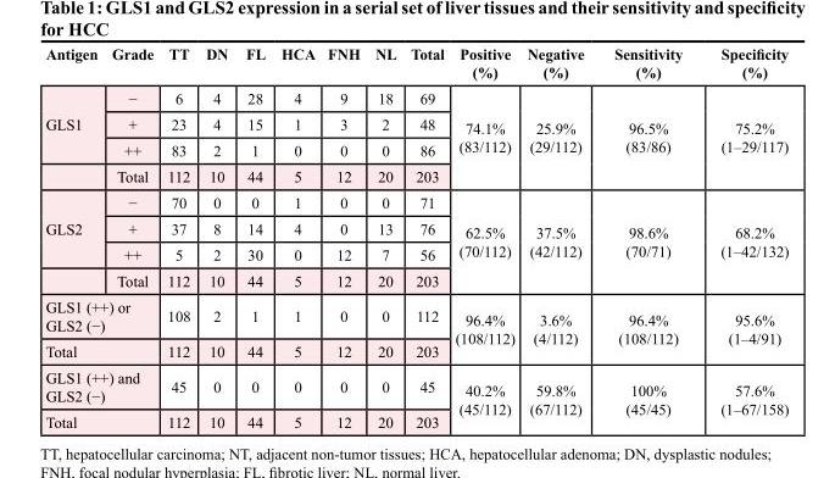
<table><thead><tr><td>Antigen</td><td>Grade</td><td>TT</td><td>DN</td><td>FL</td><td>HCA</td><td>FNH</td><td>NL</td><td>Total</td><td>Positive (%)</td><td>Negative (%)</td><td>Sensitivity (%)</td><td>Specificity (%)</td></tr></thead><tbody><tr><td rowspan="4">GLS1</td><td>−</td><td>6</td><td>4</td><td>28</td><td>4</td><td>9</td><td>18</td><td>69</td><td rowspan="4">74.1% (83/112)</td><td rowspan="4">25.9% (29/112)</td><td rowspan="4">96.5% (83/86)</td><td rowspan="4">75.2% (1–29/117)</td></tr><tr><td>+</td><td>23</td><td>4</td><td>15</td><td>1</td><td>3</td><td>2</td><td>48</td></tr><tr><td>++</td><td>83</td><td>2</td><td>1</td><td>0</td><td>0</td><td>0</td><td>86</td></tr><tr><td>Total</td><td>112</td><td>10</td><td>44</td><td>5</td><td>12</td><td>20</td><td>203</td></tr><tr><td rowspan="4">GLS2</td><td>−</td><td>70</td><td>0</td><td>0</td><td>1</td><td>0</td><td>0</td><td>71</td><td rowspan="4">62.5% (70/112)</td><td rowspan="4">37.5% (42/112)</td><td rowspan="4">98.6% (70/71)</td><td rowspan="4">68.2% (1–42/132)</td></tr><tr><td>+</td><td>37</td><td>8</td><td>14</td><td>4</td><td>0</td><td>13</td><td>76</td></tr><tr><td>++</td><td>5</td><td>2</td><td>30</td><td>0</td><td>12</td><td>7</td><td>56</td></tr><tr><td>Total</td><td>112</td><td>10</td><td>44</td><td>5</td><td>12</td><td>20</td><td>203</td></tr><tr><td colspan="2">GLS1 (++) or GLS2 (−)</td><td>108</td><td>2</td><td>1</td><td>1</td><td>0</td><td>0</td><td>112</td><td rowspan="2">96.4% (108/112)</td><td rowspan="2">3.6% (4/112)</td><td rowspan="2">96.4% (108/112)</td><td rowspan="2">95.6% (1–4/91)</td></tr><tr><td colspan="2">Total</td><td>112</td><td>10</td><td>44</td><td>5</td><td>12</td><td>20</td><td>203</td></tr><tr><td colspan="2">GLS1 (++) and GLS2 (−)</td><td>45</td><td>0</td><td>0</td><td>0</td><td>0</td><td>0</td><td>45</td><td rowspan="2">40.2% (45/112)</td><td rowspan="2">59.8% (67/112)</td><td rowspan="2">100% (45/45)</td><td rowspan="2">57.6% (1–67/158)</td></tr><tr><td colspan="2">Total</td><td>112</td><td>10</td><td>44</td><td>5</td><td>12</td><td>20</td><td>203</td></tr></tbody></table>